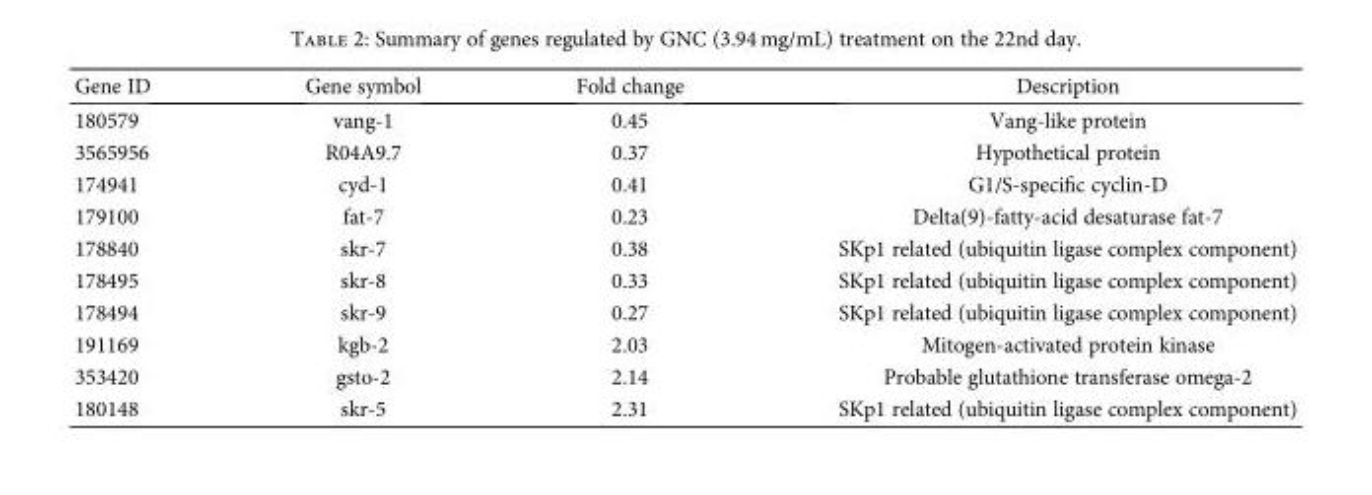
<table><thead><tr><td>Gene ID</td><td>Gene symbol</td><td>Fold change</td><td>Description</td></tr></thead><tbody><tr><td>180579</td><td>vang-1</td><td>0.45</td><td>Vang-like protein</td></tr><tr><td>3565956</td><td>R04A9.7</td><td>0.37</td><td>Hypothetical protein</td></tr><tr><td>174941</td><td>cyd-1</td><td>0.41</td><td>G1/S-specific cyclin-D</td></tr><tr><td>179100</td><td>fat-7</td><td>0.23</td><td>Delta(9)-fatty-acid desaturase fat-7</td></tr><tr><td>178840</td><td>skr-7</td><td>0.38</td><td>SKp1 related (ubiquitin ligase complex component)</td></tr><tr><td>178495</td><td>skr-8</td><td>0.33</td><td>SKp1 related (ubiquitin ligase complex component)</td></tr><tr><td>178494</td><td>skr-9</td><td>0.27</td><td>SKp1 related (ubiquitin ligase complex component)</td></tr><tr><td>191169</td><td>kgb-2</td><td>2.03</td><td>Mitogen-activated protein kinase</td></tr><tr><td>353420</td><td>gsto-2</td><td>2.14</td><td>Probable glutathione transferase omega-2</td></tr><tr><td>180148</td><td>skr-5</td><td>2.31</td><td>SKp1 related (ubiquitin ligase complex component)</td></tr></tbody></table>